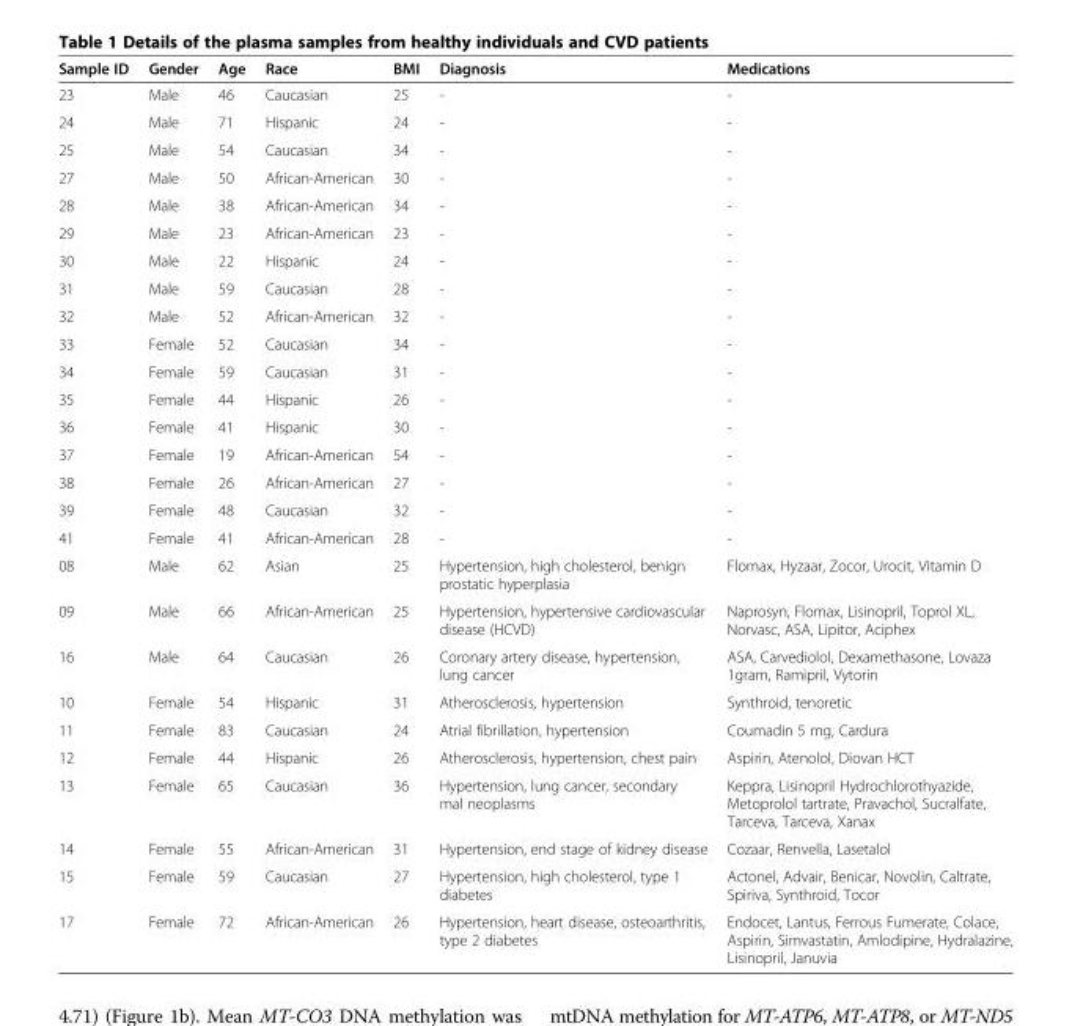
<table><thead><tr><td>Sample ID</td><td>Gender</td><td>Age</td><td>Race</td><td>BMI</td><td>Diagnosis</td><td>Medications</td></tr></thead><tbody><tr><td>23</td><td>Male</td><td>46</td><td>Caucasian</td><td>25</td><td>-</td><td>-</td></tr><tr><td>24</td><td>Male</td><td>71</td><td>Hispanic</td><td>24</td><td>-</td><td>-</td></tr><tr><td>25</td><td>Male</td><td>54</td><td>Caucasian</td><td>34</td><td>-</td><td>-</td></tr><tr><td>27</td><td>Male</td><td>50</td><td>African-American</td><td>30</td><td>-</td><td>-</td></tr><tr><td>28</td><td>Male</td><td>38</td><td>African-American</td><td>34</td><td>-</td><td>-</td></tr><tr><td>29</td><td>Male</td><td>23</td><td>African-American</td><td>23</td><td>-</td><td>-</td></tr><tr><td>30</td><td>Male</td><td>22</td><td>Hispanic</td><td>24</td><td>-</td><td>-</td></tr><tr><td>31</td><td>Male</td><td>59</td><td>Caucasian</td><td>28</td><td>-</td><td>-</td></tr><tr><td>32</td><td>Male</td><td>52</td><td>African-American</td><td>32</td><td>-</td><td>-</td></tr><tr><td>33</td><td>Female</td><td>52</td><td>Caucasian</td><td>34</td><td>-</td><td>-</td></tr><tr><td>34</td><td>Female</td><td>59</td><td>Caucasian</td><td>31</td><td>-</td><td>-</td></tr><tr><td>35</td><td>Female</td><td>44</td><td>Hispanic</td><td>26</td><td>-</td><td>-</td></tr><tr><td>36</td><td>Female</td><td>41</td><td>Hispanic</td><td>30</td><td>-</td><td>-</td></tr><tr><td>37</td><td>Female</td><td>19</td><td>African-American</td><td>54</td><td>-</td><td>-</td></tr><tr><td>38</td><td>Female</td><td>26</td><td>African-American</td><td>27</td><td>-</td><td>-</td></tr><tr><td>39</td><td>Female</td><td>48</td><td>Caucasian</td><td>32</td><td>-</td><td>-</td></tr><tr><td>41</td><td>Female</td><td>41</td><td>African-American</td><td>28</td><td>-</td><td>-</td></tr><tr><td>08</td><td>Male</td><td>62</td><td>Asian</td><td>25</td><td>Hypertension, high cholesterol, benign prostatic hyperplasia</td><td>Flomax, Hyzaar, Zocor, Urocit, Vitamin D</td></tr><tr><td>09</td><td>Male</td><td>66</td><td>African-American</td><td>25</td><td>Hypertension, hypertensive cardiovascular disease (HCVD)</td><td>Naprosyn, Flomax, Lisinopril, Toprol XL, Norvasc, ASA, Lipitor, Aciphex</td></tr><tr><td>16</td><td>Male</td><td>64</td><td>Caucasian</td><td>26</td><td>Coronary artery disease, hypertension, lung cancer</td><td>ASA, Carvediolol, Dexamethasone, Lovaza 1gram, Ramipril, Vytorin</td></tr><tr><td>10</td><td>Female</td><td>54</td><td>Hispanic</td><td>31</td><td>Atherosclerosis, hypertension</td><td>Synthroid, tenoretic</td></tr><tr><td>11</td><td>Female</td><td>83</td><td>Caucasian</td><td>24</td><td>Atrial fibrillation, hypertension</td><td>Coumadin 5 mg, Cardura</td></tr><tr><td>12</td><td>Female</td><td>44</td><td>Hispanic</td><td>26</td><td>Atherosclerosis, hypertension, chest pain</td><td>Aspirin, Atenolol, Diovan HCT</td></tr><tr><td>13</td><td>Female</td><td>65</td><td>Caucasian</td><td>36</td><td>Hypertension, lung cancer, secondary mal neoplasms</td><td>Keppra, Lisinopril Hydrochlorothyazide, Metoprolol tartrate, Pravachol, Sucralfate, Tarceva, Tarceva, Xanax</td></tr><tr><td>14</td><td>Female</td><td>55</td><td>African-American</td><td>31</td><td>Hypertension, end stage of kidney disease</td><td>Cozaar, Renvella, Lasetalol</td></tr><tr><td>15</td><td>Female</td><td>59</td><td>Caucasian</td><td>27</td><td>Hypertension, high cholesterol, type 1 diabetes</td><td>Actonel, Advair, Benicar, Novolin, Caltrate, Spiriva, Synthroid, Tocor</td></tr><tr><td>17</td><td>Female</td><td>72</td><td>African-American</td><td>26</td><td>Hypertension, heart disease, osteoarthritis, type 2 diabetes</td><td>Endocet, Lantus, Ferrous Fumerate, Colace, Aspirin, Simvastatin, Amlodipine, Hydralazine, Lisinopril, Januvia</td></tr></tbody></table>